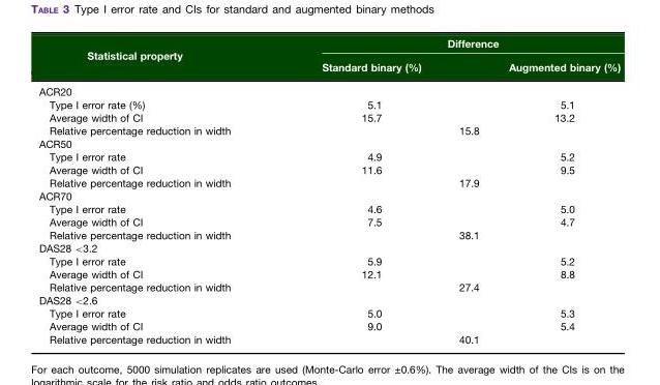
<table><thead><tr><td rowspan="2">Statistical property</td><td colspan="2">Difference</td></tr><tr><td>Standard binary (%)</td><td>Augmented binary (%)</td></tr></thead><tbody><tr><td colspan="3">ACR20</td></tr><tr><td>Type I error rate (%)</td><td>5.1</td><td>5.1</td></tr><tr><td>Average width of CI</td><td>15.7</td><td>13.2</td></tr><tr><td>Relative percentage reduction in width</td><td colspan="2">15.8</td></tr><tr><td colspan="3">ACR50</td></tr><tr><td>Type I error rate</td><td>4.9</td><td>5.2</td></tr><tr><td>Average width of CI</td><td>11.6</td><td>9.5</td></tr><tr><td>Relative percentage reduction in width</td><td colspan="2">17.9</td></tr><tr><td colspan="3">ACR70</td></tr><tr><td>Type I error rate</td><td>4.6</td><td>5.0</td></tr><tr><td>Average width of CI</td><td>7.5</td><td>4.7</td></tr><tr><td>Relative percentage reduction in width</td><td colspan="2">38.1</td></tr><tr><td colspan="3">DAS28 &lt;3.2</td></tr><tr><td>Type I error rate</td><td>5.9</td><td>5.2</td></tr><tr><td>Average width of CI</td><td>12.1</td><td>8.8</td></tr><tr><td>Relative percentage reduction in width</td><td colspan="2">27.4</td></tr><tr><td colspan="3">DAS28 &lt;2.6</td></tr><tr><td>Type I error rate</td><td>5.0</td><td>5.3</td></tr><tr><td>Average width of CI</td><td>9.0</td><td>5.4</td></tr><tr><td>Relative percentage reduction in width</td><td colspan="2">40.1</td></tr></tbody></table>